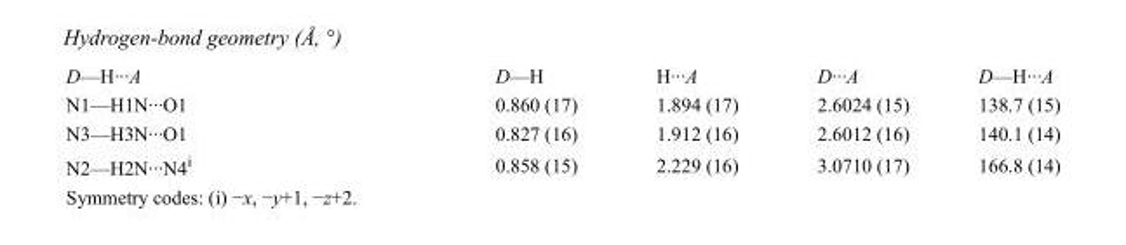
<table><tbody><tr><td>D—H···A</td><td>D—H</td><td>H···A</td><td>D···A</td><td>D—H···A</td></tr><tr><td>N1—H1N···O1</td><td>0.860 (17)</td><td>1.894 (17)</td><td>2.6024 (15)</td><td>138.7 (15)</td></tr><tr><td>N3—H3N···O1</td><td>0.827 (16)</td><td>1.912 (16)</td><td>2.6012 (16)</td><td>140.1 (14)</td></tr><tr><td>N2—H2N···N4<sup>i</sup></td><td>0.858 (15)</td><td>2.229 (16)</td><td>3.0710 (17)</td><td>166.8 (14)</td></tr></tbody></table>